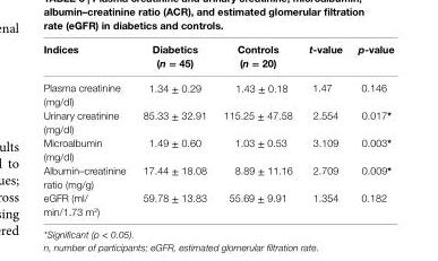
<table><thead><tr><td>indices</td><td>Diabetics (n = 45)</td><td>controls (n = 20)</td><td>t-value</td><td>p-value</td></tr></thead><tbody><tr><td>Plasma creatinine (mg/dl)</td><td>1.34 ± 0.29</td><td>1.43 ± 0.18</td><td>1.47</td><td>0.146</td></tr><tr><td>Urinary creatinine (mg/dl)</td><td>85.33 ± 32.91</td><td>115.25 ± 47.58</td><td>2.554</td><td>0.017*</td></tr><tr><td>Microalbumin (mg/dl)</td><td>1.49 ± 0.60</td><td>1.03 ± 0.53</td><td>3.109</td><td>0.003*</td></tr><tr><td>Albumin–creatinine ratio (mg/g)</td><td>17.44 ± 18.08</td><td>8.89 ± 11.16</td><td>2.709</td><td>0.009*</td></tr><tr><td>eGFR (ml/ min/1.73 m<sup>2</sup>)</td><td>59.78 ± 13.83</td><td>55.69 ± 9.91</td><td>1.354</td><td>0.182</td></tr></tbody></table>